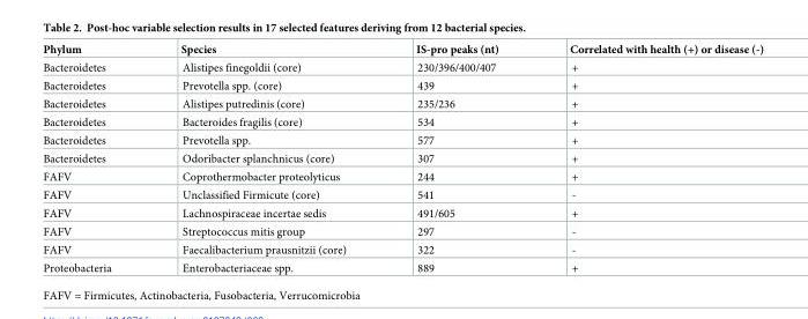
<table><thead><tr><td>Phylum</td><td>Species</td><td>IS-pro peaks (nt)</td><td>Correlated with health (+) or disease (-)</td></tr></thead><tbody><tr><td>Bacteroidetes</td><td>Alistipes finegoldii (core)</td><td>230/396/400/407</td><td>+</td></tr><tr><td>Bacteroidetes</td><td>Prevotella spp. (core)</td><td>439</td><td>+</td></tr><tr><td>Bacteroidetes</td><td>Alistipes putredinis (core)</td><td>235/236</td><td>+</td></tr><tr><td>Bacteroidetes</td><td>Bacteroides fragilis (core)</td><td>534</td><td>+</td></tr><tr><td>Bacteroidetes</td><td>Prevotella spp.</td><td>577</td><td>+</td></tr><tr><td>Bacteroidetes</td><td>Odoribacter splanchnicus (core)</td><td>307</td><td>+</td></tr><tr><td>FAFV</td><td>Coprothermobacter proteolyticus</td><td>244</td><td>+</td></tr><tr><td>FAFV</td><td>Unclassified Firmicute (core)</td><td>541</td><td>-</td></tr><tr><td>FAFV</td><td>Lachnospiraceae incertae sedis</td><td>491/605</td><td>+</td></tr><tr><td>FAFV</td><td>Streptococcus mitis group</td><td>297</td><td>-</td></tr><tr><td>FAFV</td><td>Faecalibacterium prausnitzii (core)</td><td>322</td><td>-</td></tr><tr><td>Proteobacteria</td><td>Enterobacteriaceae spp.</td><td>889</td><td>+</td></tr></tbody></table>